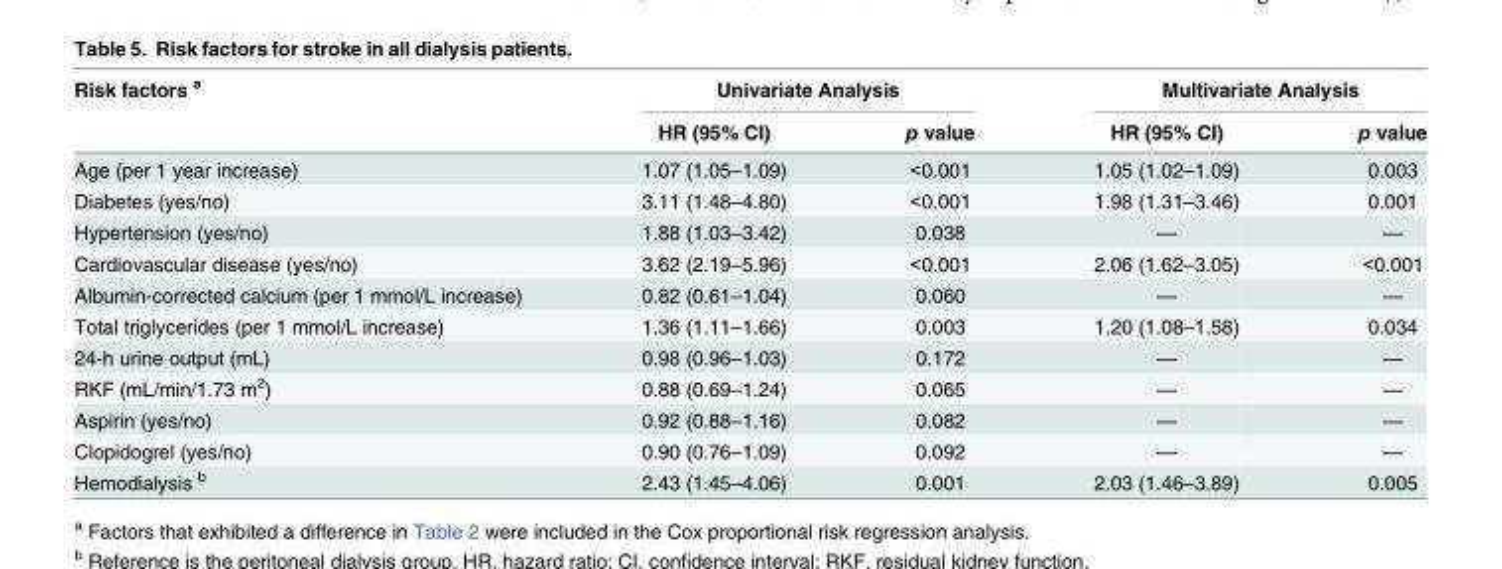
<table><thead><tr><td rowspan="2">Risk factors <sup>a</sup></td><td colspan="2">Univariate Analysis</td><td colspan="2">Multivariate Analysis</td></tr><tr><td>HR (95% CI)</td><td>p value</td><td>HR (95% CI)</td><td>p value</td></tr></thead><tbody><tr><td>Age (per 1 year increase)</td><td>1.07 (1.05–1.09)</td><td>&lt;0.001</td><td>1.05 (1.02–1.09)</td><td>0.003</td></tr><tr><td>Diabetes (yes/no)</td><td>3.11 (1.48–4.80)</td><td>&lt;0.001</td><td>1.98 (1.31–3.46)</td><td>0.001</td></tr><tr><td>Hypertension (yes/no)</td><td>1.88 (1.03–3.42)</td><td>0.038</td><td>—</td><td>—</td></tr><tr><td>Cardiovascular disease (yes/no)</td><td>3.62 (2.19–5.96)</td><td>&lt;0.001</td><td>2.06 (1.62–3.05)</td><td>&lt;0.001</td></tr><tr><td>Albumin-corrected calcium (per 1 mmol/L increase)</td><td>0.82 (0.61–1.04)</td><td>0.060</td><td>—</td><td>—</td></tr><tr><td>Total triglycerides (per 1 mmol/L increase)</td><td>1.36 (1.11–1.66)</td><td>0.003</td><td>1.20 (1.08–1.58)</td><td>0.034</td></tr><tr><td>24-h urine output (mL)</td><td>0.98 (0.96–1.03)</td><td>0.172</td><td>—</td><td>—</td></tr><tr><td>RKF (mL/min/1.73 m<sup>2</sup>)</td><td>0.88 (0.69–1.24)</td><td>0.065</td><td>—</td><td>—</td></tr><tr><td>Aspirin (yes/no)</td><td>0.92 (0.88–1.16)</td><td>0.082</td><td>—</td><td>—</td></tr><tr><td>Clopidogrel (yes/no)</td><td>0.90 (0.76–1.09)</td><td>0.092</td><td>—</td><td>—</td></tr><tr><td>Hemodialysis <sup>b</sup></td><td>2.43 (1.45–4.06)</td><td>0.001</td><td>2.03 (1.46–3.89)</td><td>0.005</td></tr></tbody></table>